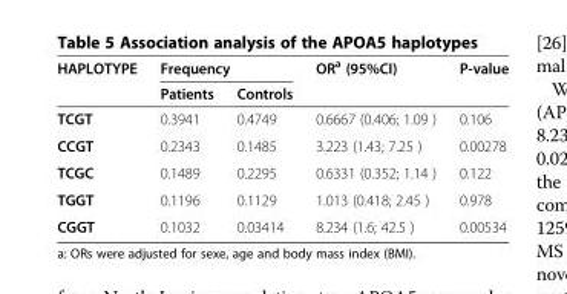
<table><thead><tr><td rowspan="2">HAPLOTYPE</td><td colspan="2">Frequency</td><td rowspan="2">OR<sup>a</sup> (95%CI)</td><td rowspan="2">P-value</td></tr><tr><td>Patients</td><td>Controls</td></tr></thead><tbody><tr><td>TCGT</td><td>0.3941</td><td>0.4749</td><td>0.6667 (0.406; 1.09 )</td><td>0.106</td></tr><tr><td>CCGT</td><td>0.2343</td><td>0.1485</td><td>3.223 (1.43; 7.25 )</td><td>0.00278</td></tr><tr><td>TCGC</td><td>0.1489</td><td>0.2295</td><td>0.6331 (0.352; 1.14 )</td><td>0.122</td></tr><tr><td>TGGT</td><td>0.1196</td><td>0.1129</td><td>1.013 (0.418; 2.45 )</td><td>0.978</td></tr><tr><td>CGGT</td><td>0.1032</td><td>0.03414</td><td>8.234 (1.6; 42.5 )</td><td>0.00534</td></tr></tbody></table>